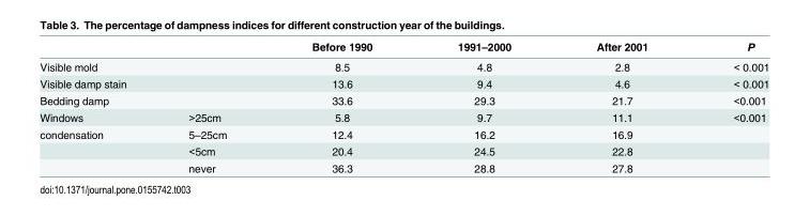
<table><thead><tr><td></td><td></td><td>Before 1990</td><td>1991–2000</td><td>After 2001</td><td>P</td></tr></thead><tbody><tr><td colspan="2">Visible mold</td><td>8.5</td><td>4.8</td><td>2.8</td><td>&lt; 0.001</td></tr><tr><td colspan="2">Visible damp stain</td><td>13.6</td><td>9.4</td><td>4.6</td><td>&lt; 0.001</td></tr><tr><td colspan="2">Bedding damp</td><td>33.6</td><td>29.3</td><td>21.7</td><td>&lt;0.001</td></tr><tr><td>Windows</td><td>&gt;25cm</td><td>5.8</td><td>9.7</td><td>11.1</td><td>&lt;0.001</td></tr><tr><td rowspan="3">condensation</td><td>5–25cm</td><td>12.4</td><td>16.2</td><td>16.9</td><td></td></tr><tr><td>&lt;5cm</td><td>20.4</td><td>24.5</td><td>22.8</td><td></td></tr><tr><td>never</td><td>36.3</td><td>28.8</td><td>27.8</td><td></td></tr></tbody></table>